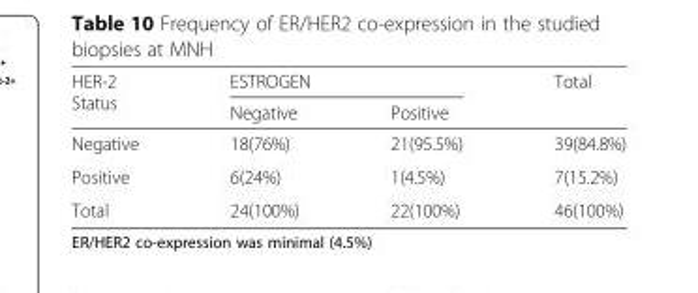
<table><thead><tr><td rowspan="2">HER-2 Status</td><td colspan="2">ESTROGEN</td><td rowspan="2">Total</td></tr><tr><td>Negative</td><td>Positive</td></tr></thead><tbody><tr><td>Negative</td><td>18(76%)</td><td>21(95.5%)</td><td>39(84.8%)</td></tr><tr><td>Positive</td><td>6(24%)</td><td>1(4.5%)</td><td>7(15.2%)</td></tr><tr><td>Total</td><td>24(100%)</td><td>22(100%)</td><td>46(100%)</td></tr></tbody></table>